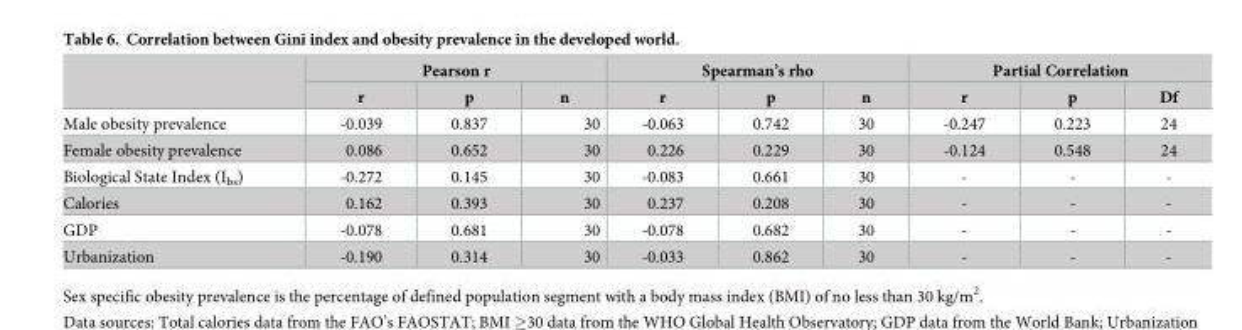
<table><thead><tr><td rowspan="2"></td><td colspan="3">Pearson r</td><td colspan="3">Spearman’s rho</td><td colspan="3">Partial Correlation</td></tr><tr><td>r</td><td>p</td><td>n</td><td>r</td><td>p</td><td>n</td><td>r</td><td>p</td><td>Df</td></tr></thead><tbody><tr><td>Male obesity prevalence</td><td>-0.039</td><td>0.837</td><td>30</td><td>-0.063</td><td>0.742</td><td>30</td><td>-0.247</td><td>0.223</td><td>24</td></tr><tr><td>Female obesity prevalence</td><td>0.086</td><td>0.652</td><td>30</td><td>0.226</td><td>0.229</td><td>30</td><td>-0.124</td><td>0.548</td><td>24</td></tr><tr><td>Biological State Index (I<sub>bs</sub>)</td><td>-0.272</td><td>0.145</td><td>30</td><td>-0.083</td><td>0.661</td><td>30</td><td>-</td><td>-</td><td>-</td></tr><tr><td>Calories</td><td>0.162</td><td>0.393</td><td>30</td><td>0.237</td><td>0.208</td><td>30</td><td>-</td><td>-</td><td>-</td></tr><tr><td>GDP</td><td>-0.078</td><td>0.681</td><td>30</td><td>-0.078</td><td>0.682</td><td>30</td><td>-</td><td>-</td><td>-</td></tr><tr><td>Urbanization</td><td>-0.190</td><td>0.314</td><td>30</td><td>-0.033</td><td>0.862</td><td>30</td><td>-</td><td>-</td><td>-</td></tr></tbody></table>